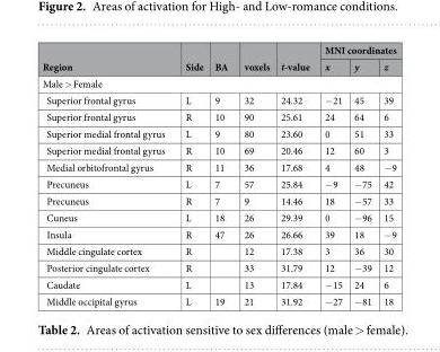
<table><thead><tr><td rowspan="2">Region</td><td rowspan="2">Side</td><td rowspan="2">BA</td><td rowspan="2">voxels</td><td rowspan="2">t-value</td><td colspan="3">MNI coordinates</td></tr><tr><td>x</td><td>y</td><td>z</td></tr></thead><tbody><tr><td colspan="8">Male &gt; Female</td></tr><tr><td>Superior frontal gyrus</td><td>L</td><td>9</td><td>32</td><td>24.32</td><td>−21</td><td>45</td><td>39</td></tr><tr><td>Superior frontal gyrus</td><td>R</td><td>10</td><td>90</td><td>25.61</td><td>24</td><td>64</td><td>6</td></tr><tr><td>Superior medial frontal gyrus</td><td>L</td><td>9</td><td>80</td><td>23.60</td><td>0</td><td>51</td><td>33</td></tr><tr><td>Superior medial frontal gyrus</td><td>R</td><td>10</td><td>69</td><td>20.46</td><td>12</td><td>60</td><td>3</td></tr><tr><td>Medial orbitofrontal gyrus</td><td>R</td><td>11</td><td>36</td><td>17.68</td><td>4</td><td>48</td><td>−9</td></tr><tr><td>Precuneus</td><td>L</td><td>7</td><td>57</td><td>25.84</td><td>−9</td><td>−75</td><td>42</td></tr><tr><td>Precuneus</td><td>R</td><td>7</td><td>9</td><td>14.46</td><td>18</td><td>−57</td><td>33</td></tr><tr><td>Cuneus</td><td>L</td><td>18</td><td>26</td><td>29.39</td><td>0</td><td>−96</td><td>15</td></tr><tr><td>Insula</td><td>R</td><td>47</td><td>26</td><td>26.66</td><td>39</td><td>18</td><td>−9</td></tr><tr><td>Middle cingulate cortex</td><td>R</td><td></td><td>12</td><td>17.38</td><td>3</td><td>36</td><td>30</td></tr><tr><td>Posterior cingulate cortex</td><td>R</td><td></td><td>33</td><td>31.79</td><td>12</td><td>−39</td><td>12</td></tr><tr><td>Caudate</td><td>L</td><td></td><td>13</td><td>17.84</td><td>−15</td><td>24</td><td>6</td></tr><tr><td>Middle occipital gyrus</td><td>L</td><td>19</td><td>21</td><td>31.92</td><td>−27</td><td>−81</td><td>18</td></tr></tbody></table>